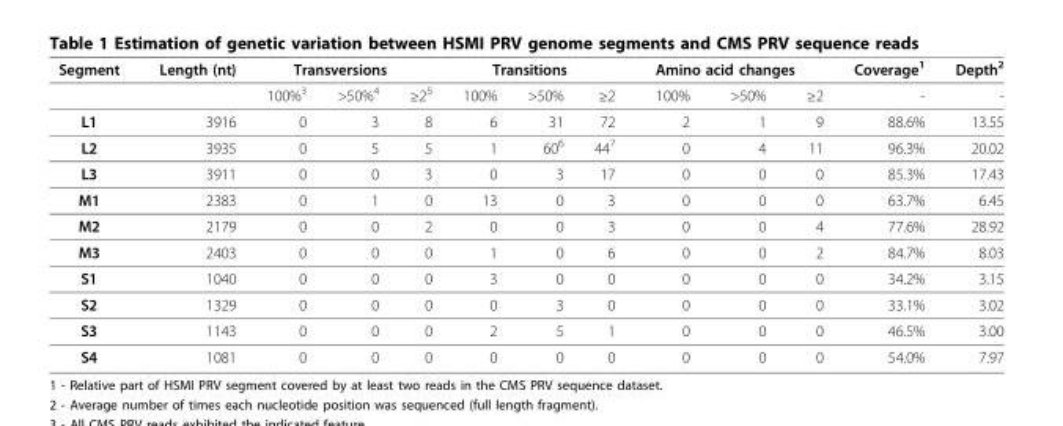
<table><thead><tr><td rowspan="2">Segment</td><td rowspan="2">Length (nt)</td><td colspan="3">Transversions</td><td colspan="3">Transitions</td><td colspan="3">Amino acid changes</td><td rowspan="2">Coverage<sup>1</sup> -</td><td rowspan="2">Depth<sup>2</sup> -</td></tr><tr><td>100%<sup>3</sup></td><td>&gt;50%<sup>4</sup></td><td>≥2<sup>5</sup></td><td>100%</td><td>&gt;50%</td><td>≥2</td><td>100%</td><td>&gt;50%</td><td>≥2</td></tr></thead><tbody><tr><td>L1</td><td>3916</td><td>0</td><td>3</td><td>8</td><td>6</td><td>31</td><td>72</td><td>2</td><td>1</td><td>9</td><td>88.6%</td><td>13.55</td></tr><tr><td>L2</td><td>3935</td><td>0</td><td>5</td><td>5</td><td>1</td><td>60<sup>6</sup></td><td>44<sup>7</sup></td><td>0</td><td>4</td><td>11</td><td>96.3%</td><td>20.02</td></tr><tr><td>L3</td><td>3911</td><td>0</td><td>0</td><td>3</td><td>0</td><td>3</td><td>17</td><td>0</td><td>0</td><td>0</td><td>85.3%</td><td>17.43</td></tr><tr><td>M1</td><td>2383</td><td>0</td><td>1</td><td>0</td><td>13</td><td>0</td><td>3</td><td>0</td><td>0</td><td>0</td><td>63.7%</td><td>6.45</td></tr><tr><td>M2</td><td>2179</td><td>0</td><td>0</td><td>2</td><td>0</td><td>0</td><td>3</td><td>0</td><td>0</td><td>4</td><td>77.6%</td><td>28.92</td></tr><tr><td>M3</td><td>2403</td><td>0</td><td>0</td><td>0</td><td>1</td><td>0</td><td>6</td><td>0</td><td>0</td><td>2</td><td>84.7%</td><td>8.03</td></tr><tr><td>S1</td><td>1040</td><td>0</td><td>0</td><td>0</td><td>3</td><td>0</td><td>0</td><td>0</td><td>0</td><td>0</td><td>34.2%</td><td>3.15</td></tr><tr><td>S2</td><td>1329</td><td>0</td><td>0</td><td>0</td><td>0</td><td>3</td><td>0</td><td>0</td><td>0</td><td>0</td><td>33.1%</td><td>3.02</td></tr><tr><td>S3</td><td>1143</td><td>0</td><td>0</td><td>0</td><td>2</td><td>5</td><td>1</td><td>0</td><td>0</td><td>0</td><td>46.5%</td><td>3.00</td></tr><tr><td>S4</td><td>1081</td><td>0</td><td>0</td><td>0</td><td>0</td><td>0</td><td>0</td><td>0</td><td>0</td><td>0</td><td>54.0%</td><td>7.97</td></tr></tbody></table>